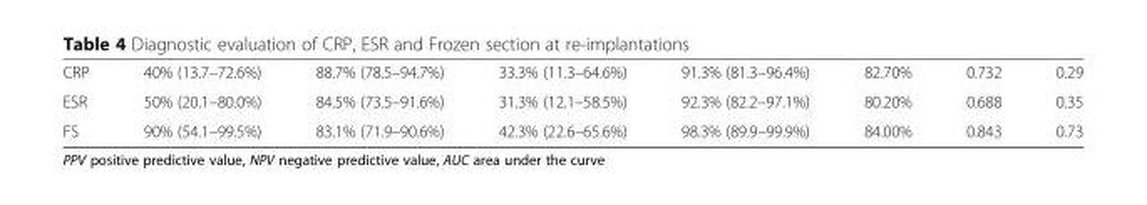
<table><tbody><tr><td>CRP</td><td>40% (13.7–72.6%)</td><td>88.7% (78.5–94.7%)</td><td>33.3% (11.3–64.6%)</td><td>91.3% (81.3–96.4%)</td><td>82.70%</td><td>0.732</td><td>0.29</td></tr><tr><td>ESR</td><td>50% (20.1–80.0%)</td><td>84.5% (73.5–91.6%)</td><td>31.3% (12.1–58.5%)</td><td>92.3% (82.2–97.1%)</td><td>80.20%</td><td>0.688</td><td>0.35</td></tr><tr><td>FS</td><td>90% (54.1–99.5%)</td><td>83.1% (71.9–90.6%)</td><td>42.3% (22.6–65.6%)</td><td>98.3% (89.9–99.9%)</td><td>84.00%</td><td>0.843</td><td>0.73</td></tr></tbody></table>